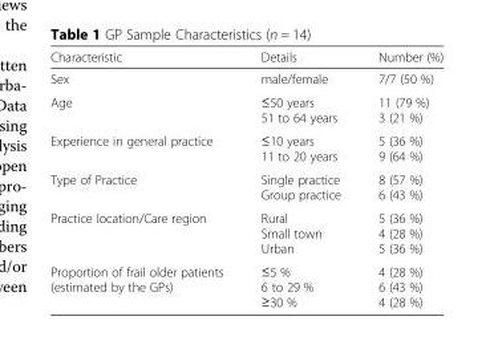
<table><thead><tr><td>Characteristic</td><td>Details</td><td>Number (%)</td></tr></thead><tbody><tr><td>Sex</td><td>male/female</td><td>7/7 (50 %)</td></tr><tr><td>Age</td><td>≤50 years 51 to 64 years</td><td>11 (79 %) 3 (21 %)</td></tr><tr><td>Experience in general practice</td><td>≤10 years 11 to 20 years</td><td>5 (36 %) 9 (64 %)</td></tr><tr><td>Type of Practice</td><td>Single practice Group practice</td><td>8 (57 %) 6 (43 %)</td></tr><tr><td>Practice location/Care region</td><td>Rural Small town Urban</td><td>5 (36 %) 4 (28 %) 5 (36 %)</td></tr><tr><td>Proportion of frail older patients (estimated by the GPs)</td><td>≤5 % 6 to 29 % ≥30 %</td><td>4 (28 %) 6 (43 %) 4 (28 %)</td></tr></tbody></table>